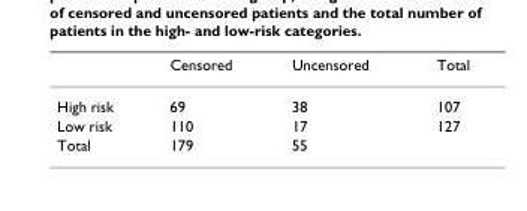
<table><thead><tr><td></td><td>Censored</td><td>Uncensored</td><td>Total</td></tr></thead><tbody><tr><td>High risk</td><td>69</td><td>38</td><td>107</td></tr><tr><td>Low risk</td><td>110</td><td>17</td><td>127</td></tr><tr><td>Total</td><td>179</td><td>55</td><td></td></tr></tbody></table>